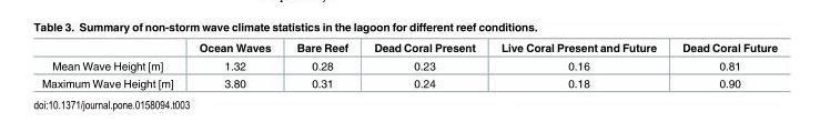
<table><thead><tr><td></td><td>Ocean Waves</td><td>Bare Reef</td><td>Dead Coral Present</td><td>Live Coral Present and Future</td><td>Dead Coral Future</td></tr></thead><tbody><tr><td>Mean Wave Height [m]</td><td>1.32</td><td>0.28</td><td>0.23</td><td>0.16</td><td>0.81</td></tr><tr><td>Maximum Wave Height [m]</td><td>3.80</td><td>0.31</td><td>0.24</td><td>0.18</td><td>0.90</td></tr></tbody></table>